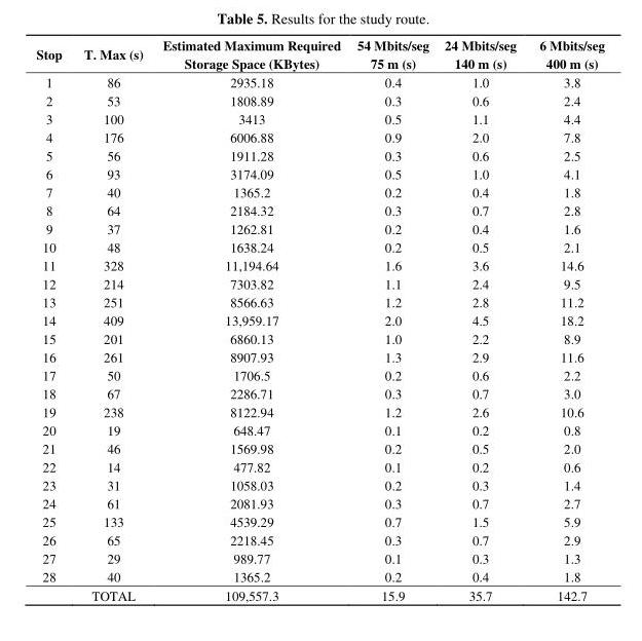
<table><thead><tr><td>Stop</td><td>T. Max (s)</td><td>Estimated Maximum Required Storage Space (KBytes)</td><td>54 Mbits/seg 75 m (s)</td><td>24 Mbits/seg 140 m (s)</td><td>6 Mbits/seg 400 m (s)</td></tr></thead><tbody><tr><td>1</td><td>86</td><td>2935.18</td><td>0.4</td><td>1.0</td><td>3.8</td></tr><tr><td>2</td><td>53</td><td>1808.89</td><td>0.3</td><td>0.6</td><td>2.4</td></tr><tr><td>3</td><td>100</td><td>3413</td><td>0.5</td><td>1.1</td><td>4.4</td></tr><tr><td>4</td><td>176</td><td>6006.88</td><td>0.9</td><td>2.0</td><td>7.8</td></tr><tr><td>5</td><td>56</td><td>1911.28</td><td>0.3</td><td>0.6</td><td>2.5</td></tr><tr><td>6</td><td>93</td><td>3174.09</td><td>0.5</td><td>1.0</td><td>4.1</td></tr><tr><td>7</td><td>40</td><td>1365.2</td><td>0.2</td><td>0.4</td><td>1.8</td></tr><tr><td>8</td><td>64</td><td>2184.32</td><td>0.3</td><td>0.7</td><td>2.8</td></tr><tr><td>9</td><td>37</td><td>1262.81</td><td>0.2</td><td>0.4</td><td>1.6</td></tr><tr><td>10</td><td>48</td><td>1638.24</td><td>0.2</td><td>0.5</td><td>2.1</td></tr><tr><td>11</td><td>328</td><td>11,194.64</td><td>1.6</td><td>3.6</td><td>14.6</td></tr><tr><td>12</td><td>214</td><td>7303.82</td><td>1.1</td><td>2.4</td><td>9.5</td></tr><tr><td>13</td><td>251</td><td>8566.63</td><td>1.2</td><td>2.8</td><td>11.2</td></tr><tr><td>14</td><td>409</td><td>13,959.17</td><td>2.0</td><td>4.5</td><td>18.2</td></tr><tr><td>15</td><td>201</td><td>6860.13</td><td>1.0</td><td>2.2</td><td>8.9</td></tr><tr><td>16</td><td>261</td><td>8907.93</td><td>1.3</td><td>2.9</td><td>11.6</td></tr><tr><td>17</td><td>50</td><td>1706.5</td><td>0.2</td><td>0.6</td><td>2.2</td></tr><tr><td>18</td><td>67</td><td>2286.71</td><td>0.3</td><td>0.7</td><td>3.0</td></tr><tr><td>19</td><td>238</td><td>8122.94</td><td>1.2</td><td>2.6</td><td>10.6</td></tr><tr><td>20</td><td>19</td><td>648.47</td><td>0.1</td><td>0.2</td><td>0.8</td></tr><tr><td>21</td><td>46</td><td>1569.98</td><td>0.2</td><td>0.5</td><td>2.0</td></tr><tr><td>22</td><td>14</td><td>477.82</td><td>0.1</td><td>0.2</td><td>0.6</td></tr><tr><td>23</td><td>31</td><td>1058.03</td><td>0.2</td><td>0.3</td><td>1.4</td></tr><tr><td>24</td><td>61</td><td>2081.93</td><td>0.3</td><td>0.7</td><td>2.7</td></tr><tr><td>25</td><td>133</td><td>4539.29</td><td>0.7</td><td>1.5</td><td>5.9</td></tr><tr><td>26</td><td>65</td><td>2218.45</td><td>0.3</td><td>0.7</td><td>2.9</td></tr><tr><td>27</td><td>29</td><td>989.77</td><td>0.1</td><td>0.3</td><td>1.3</td></tr><tr><td rowspan="2">28</td><td>40</td><td>1365.2</td><td>0.2</td><td>0.4</td><td>1.8</td></tr><tr><td>TOTAL</td><td>109,557.3</td><td>15.9</td><td>35.7</td><td>142.7</td></tr></tbody></table>